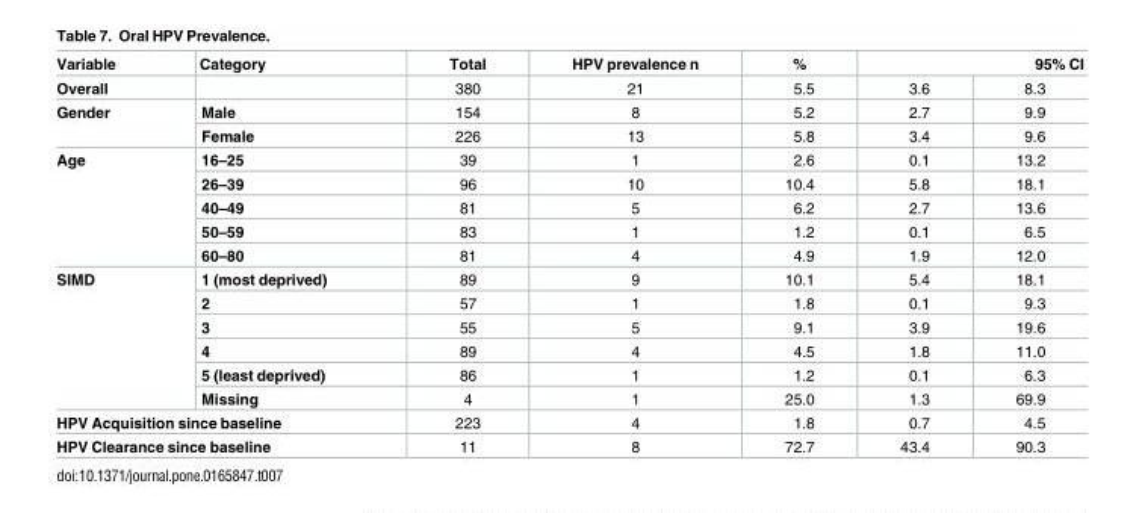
<table><thead><tr><td rowspan="2">Variable Overall</td><td rowspan="2">Category</td><td rowspan="2">Total 380</td><td rowspan="2">HPV prevalence n 21</td><td rowspan="2">% 5.5</td><td colspan="2">95% CI</td></tr><tr><td>3.6</td><td>8.3</td></tr></thead><tbody><tr><td rowspan="2">Gender</td><td>Male</td><td>154</td><td>8</td><td>5.2</td><td>2.7</td><td>9.9</td></tr><tr><td>Female</td><td>226</td><td>13</td><td>5.8</td><td>3.4</td><td>9.6</td></tr><tr><td rowspan="5">Age</td><td>16–25</td><td>39</td><td>1</td><td>2.6</td><td>0.1</td><td>13.2</td></tr><tr><td>26–39</td><td>96</td><td>10</td><td>10.4</td><td>5.8</td><td>18.1</td></tr><tr><td>40–49</td><td>81</td><td>5</td><td>6.2</td><td>2.7</td><td>13.6</td></tr><tr><td>50–59</td><td>83</td><td>1</td><td>1.2</td><td>0.1</td><td>6.5</td></tr><tr><td>60–80</td><td>81</td><td>4</td><td>4.9</td><td>1.9</td><td>12.0</td></tr><tr><td rowspan="6">SIMD</td><td>1 (most deprived)</td><td>89</td><td>9</td><td>10.1</td><td>5.4</td><td>18.1</td></tr><tr><td>2</td><td>57</td><td>1</td><td>1.8</td><td>0.1</td><td>9.3</td></tr><tr><td>3</td><td>55</td><td>5</td><td>9.1</td><td>3.9</td><td>19.6</td></tr><tr><td>4</td><td>89</td><td>4</td><td>4.5</td><td>1.8</td><td>11.0</td></tr><tr><td>5 (least deprived)</td><td>86</td><td>1</td><td>1.2</td><td>0.1</td><td>6.3</td></tr><tr><td>Missing</td><td>4</td><td>1</td><td>25.0</td><td>1.3</td><td>69.9</td></tr><tr><td colspan="2">HPV Acquisition since baseline</td><td>223</td><td>4</td><td>1.8</td><td>0.7</td><td>4.5</td></tr><tr><td colspan="2">HPV Clearance since baseline</td><td>11</td><td>8</td><td>72.7</td><td>43.4</td><td>90.3</td></tr></tbody></table>